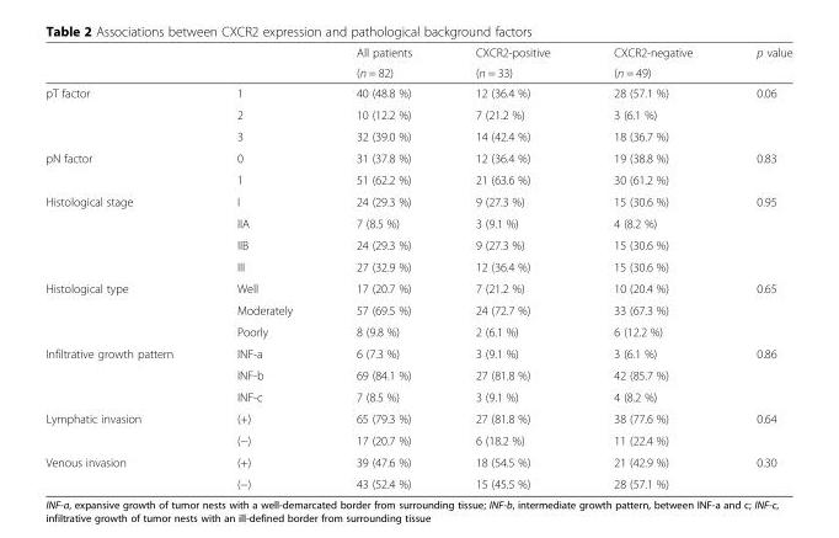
<table><thead><tr><td rowspan="2"></td><td rowspan="2"></td><td rowspan="2">All patients (n = 82)</td><td rowspan="2">CXCR2-positive (n = 33)</td><td rowspan="2">CXCR2-negative (n = 49)</td><td rowspan="2">p value</td></tr><tr></tr></thead><tbody><tr><td rowspan="3">pT factor</td><td>1</td><td>40 (48.8 %)</td><td>12 (36.4 %)</td><td>28 (57.1 %)</td><td>0.06</td></tr><tr><td>2</td><td>10 (12.2 %)</td><td>7 (21.2 %)</td><td>3 (6.1 %)</td><td></td></tr><tr><td>3</td><td>32 (39.0 %)</td><td>14 (42.4 %)</td><td>18 (36.7 %)</td><td></td></tr><tr><td rowspan="2">pN factor</td><td>0</td><td>31 (37.8 %)</td><td>12 (36.4 %)</td><td>19 (38.8 %)</td><td>0.83</td></tr><tr><td>1</td><td>51 (62.2 %)</td><td>21 (63.6 %)</td><td>30 (61.2 %)</td><td></td></tr><tr><td rowspan="4">Histological stage</td><td>I</td><td>24 (29.3 %)</td><td>9 (27.3 %)</td><td>15 (30.6 %)</td><td>0.95</td></tr><tr><td>IIA</td><td>7 (8.5 %)</td><td>3 (9.1 %)</td><td>4 (8.2 %)</td><td></td></tr><tr><td>IIB</td><td>24 (29.3 %)</td><td>9 (27.3 %)</td><td>15 (30.6 %)</td><td></td></tr><tr><td>III</td><td>27 (32.9 %)</td><td>12 (36.4 %)</td><td>15 (30.6 %)</td><td></td></tr><tr><td rowspan="3">Histological type</td><td>Well</td><td>17 (20.7 %)</td><td>7 (21.2 %)</td><td>10 (20.4 %)</td><td>0.65</td></tr><tr><td>Moderately</td><td>57 (69.5 %)</td><td>24 (72.7 %)</td><td>33 (67.3 %)</td><td></td></tr><tr><td>Poorly</td><td>8 (9.8 %)</td><td>2 (6.1 %)</td><td>6 (12.2 %)</td><td></td></tr><tr><td rowspan="3">Infiltrative growth pattern</td><td>INF-a</td><td>6 (7.3 %)</td><td>3 (9.1 %)</td><td>3 (6.1 %)</td><td>0.86</td></tr><tr><td>INF-b</td><td>69 (84.1 %)</td><td>27 (81.8 %)</td><td>42 (85.7 %)</td><td></td></tr><tr><td>INF-c</td><td>7 (8.5 %)</td><td>3 (9.1 %)</td><td>4 (8.2 %)</td><td></td></tr><tr><td rowspan="2">Lymphatic invasion</td><td>(+)</td><td>65 (79.3 %)</td><td>27 (81.8 %)</td><td>38 (77.6 %)</td><td>0.64</td></tr><tr><td>(−)</td><td>17 (20.7 %)</td><td>6 (18.2 %)</td><td>11 (22.4 %)</td><td></td></tr><tr><td rowspan="2">Venous invasion</td><td>(+)</td><td>39 (47.6 %)</td><td>18 (54.5 %)</td><td>21 (42.9 %)</td><td>0.30</td></tr><tr><td>(−)</td><td>43 (52.4 %)</td><td>15 (45.5 %)</td><td>28 (57.1 %)</td><td></td></tr></tbody></table>